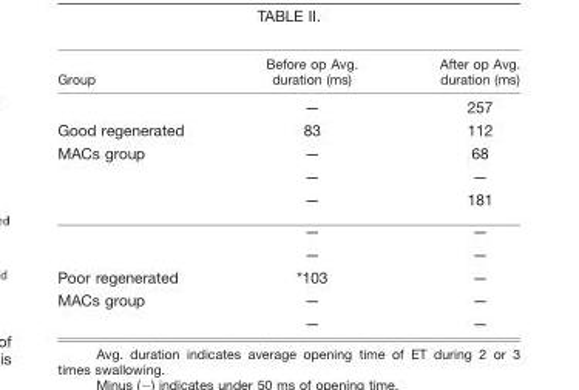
<table><thead><tr><td>Group</td><td>Before op Avg. duration (ms)</td><td>After op Avg. duration (ms)</td></tr></thead><tbody><tr><td></td><td>—</td><td>257</td></tr><tr><td>Good regenerated</td><td>83</td><td>112</td></tr><tr><td rowspan="5">MACs group</td><td>—</td><td>68</td></tr><tr><td>—</td><td>—</td></tr><tr><td>—</td><td>181</td></tr><tr><td>—</td><td>—</td></tr><tr><td>—</td><td>—</td></tr><tr><td>Poor regenerated</td><td>*103</td><td>—</td></tr><tr><td rowspan="2">MACs group</td><td>—</td><td>—</td></tr><tr><td>—</td><td>—</td></tr></tbody></table>